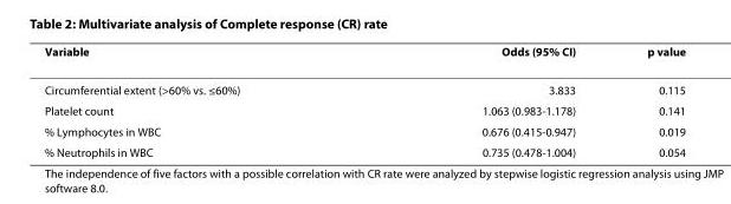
<table><thead><tr><td>Variable</td><td>Odds (95% CI)</td><td>p value</td></tr></thead><tbody><tr><td>Circumferential extent (&gt;60% vs. ≤60%)</td><td>3.833</td><td>0.115</td></tr><tr><td>Platelet count</td><td>1.063 (0.983-1.178)</td><td>0.141</td></tr><tr><td>% Lymphocytes in WBC</td><td>0.676 (0.415-0.947)</td><td>0.019</td></tr><tr><td>% Neutrophils in WBC</td><td>0.735 (0.478-1.004)</td><td>0.054</td></tr></tbody></table>